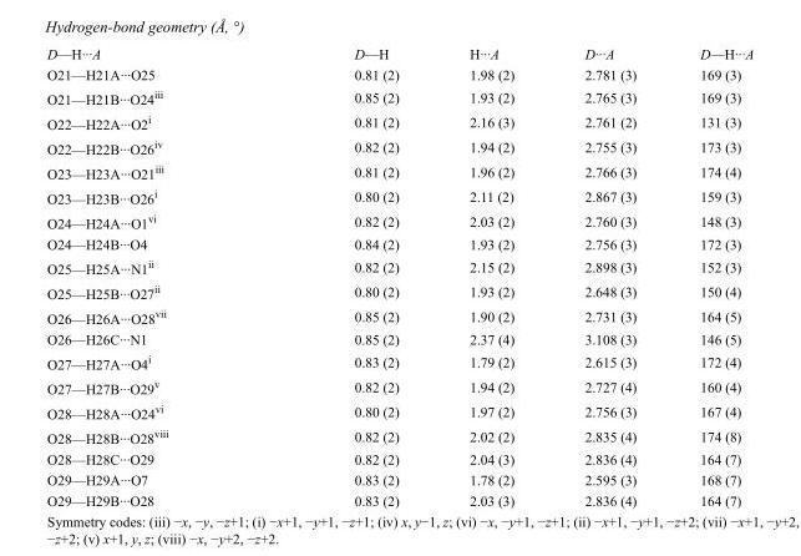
<table><tbody><tr><td>D—H···A</td><td>D—H</td><td>H···A</td><td>D···A</td><td>D—H···A</td></tr><tr><td>O21—H21A···O25</td><td>0.81 (2)</td><td>1.98 (2)</td><td>2.781 (3)</td><td>169 (3)</td></tr><tr><td>O21—H21B···O24<sup>iii</sup></td><td>0.85 (2)</td><td>1.93 (2)</td><td>2.765 (3)</td><td>169 (3)</td></tr><tr><td>O22—H22A···O2<sup>i</sup></td><td>0.81 (2)</td><td>2.16 (3)</td><td>2.761 (2)</td><td>131 (3)</td></tr><tr><td>O22—H22B···O26<sup>iv</sup></td><td>0.82 (2)</td><td>1.94 (2)</td><td>2.755 (3)</td><td>173 (3)</td></tr><tr><td>O23—H23A···O21<sup>iii</sup></td><td>0.81 (2)</td><td>1.96 (2)</td><td>2.766 (3)</td><td>174 (4)</td></tr><tr><td>O23—H23B···O26<sup>i</sup></td><td>0.80 (2)</td><td>2.11 (2)</td><td>2.867 (3)</td><td>159 (3)</td></tr><tr><td>O24—H24A···O1<sup>vi</sup></td><td>0.82 (2)</td><td>2.03 (2)</td><td>2.760 (3)</td><td>148 (3)</td></tr><tr><td>O24—H24B···O4</td><td>0.84 (2)</td><td>1.93 (2)</td><td>2.756 (3)</td><td>172 (3)</td></tr><tr><td>O25—H25A···N1<sup>ii</sup></td><td>0.82 (2)</td><td>2.15 (2)</td><td>2.898 (3)</td><td>152 (3)</td></tr><tr><td>O25—H25B···O27<sup>ii</sup></td><td>0.80 (2)</td><td>1.93 (2)</td><td>2.648 (3)</td><td>150 (4)</td></tr><tr><td>O26—H26A···O28<sup>vii</sup></td><td>0.85 (2)</td><td>1.90 (2)</td><td>2.731 (3)</td><td>164 (5)</td></tr><tr><td>O26—H26C···N1</td><td>0.85 (2)</td><td>2.37 (4)</td><td>3.108 (3)</td><td>146 (5)</td></tr><tr><td>O27—H27A···O4<sup>i</sup></td><td>0.83 (2)</td><td>1.79 (2)</td><td>2.615 (3)</td><td>172 (4)</td></tr><tr><td>O27—H27B···O29<sup>v</sup></td><td>0.82 (2)</td><td>1.94 (2)</td><td>2.727 (4)</td><td>160 (4)</td></tr><tr><td>O28—H28A···O24<sup>vi</sup></td><td>0.80 (2)</td><td>1.97 (2)</td><td>2.756 (3)</td><td>167 (4)</td></tr><tr><td>O28—H28B···O28<sup>viii</sup></td><td>0.82 (2)</td><td>2.02 (2)</td><td>2.835 (4)</td><td>174 (8)</td></tr><tr><td>O28—H28C···O29</td><td>0.82 (2)</td><td>2.04 (3)</td><td>2.836 (4)</td><td>164 (7)</td></tr><tr><td>O29—H29A···O7</td><td>0.83 (2)</td><td>1.78 (2)</td><td>2.595 (3)</td><td>168 (7)</td></tr><tr><td>O29—H29B···O28</td><td>0.83 (2)</td><td>2.03 (3)</td><td>2.836 (4)</td><td>164 (7)</td></tr></tbody></table>